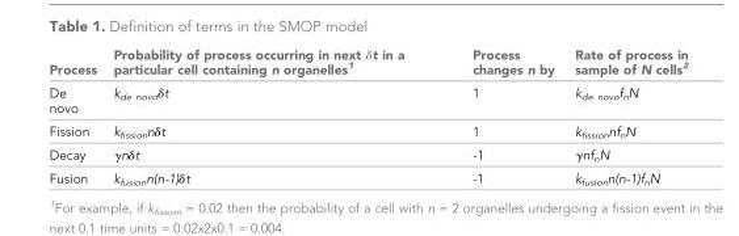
<table><thead><tr><td>Process</td><td>Probability of process occurring in next δt in a particular cell containing n organelles<sup>1</sup></td><td>Process changes n by</td><td>Rate of process in sample of N cells<sup>2</sup></td></tr></thead><tbody><tr><td>De novo</td><td>k<sub>de novo</sub>δt</td><td>1</td><td>k<sub>de novo</sub>f<sub>n</sub>N</td></tr><tr><td>Fission</td><td>k<sub>fission</sub>nδt</td><td>1</td><td>k<sub>fission</sub>nf<sub>n</sub>N</td></tr><tr><td>Decay</td><td>γnδt</td><td>-1</td><td>γnf<sub>n</sub>N</td></tr><tr><td>Fusion</td><td>k<sub>fusion</sub>n(n-1)δt</td><td>-1</td><td>k<sub>fusion</sub>n(n-1)f<sub>n</sub>N</td></tr></tbody></table>